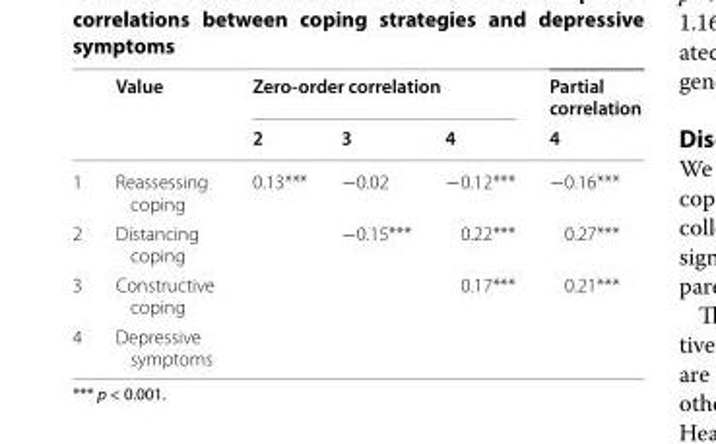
<table><thead><tr><td rowspan="2"></td><td rowspan="2">Value</td><td colspan="3">Zero-order correlation</td><td rowspan="2">Partial correlation 4</td></tr><tr><td>2</td><td>3</td><td>4</td></tr></thead><tbody><tr><td>1</td><td>Reassessing coping</td><td>0.13***</td><td>−0.02</td><td>−0.12***</td><td>−0.16***</td></tr><tr><td>2</td><td>Distancing coping</td><td></td><td>−0.15***</td><td>0.22***</td><td>0.27***</td></tr><tr><td>3</td><td>Constructive coping</td><td></td><td></td><td>0.17***</td><td>0.21***</td></tr><tr><td>4</td><td>Depressive symptoms</td><td></td><td></td><td></td><td></td></tr></tbody></table>